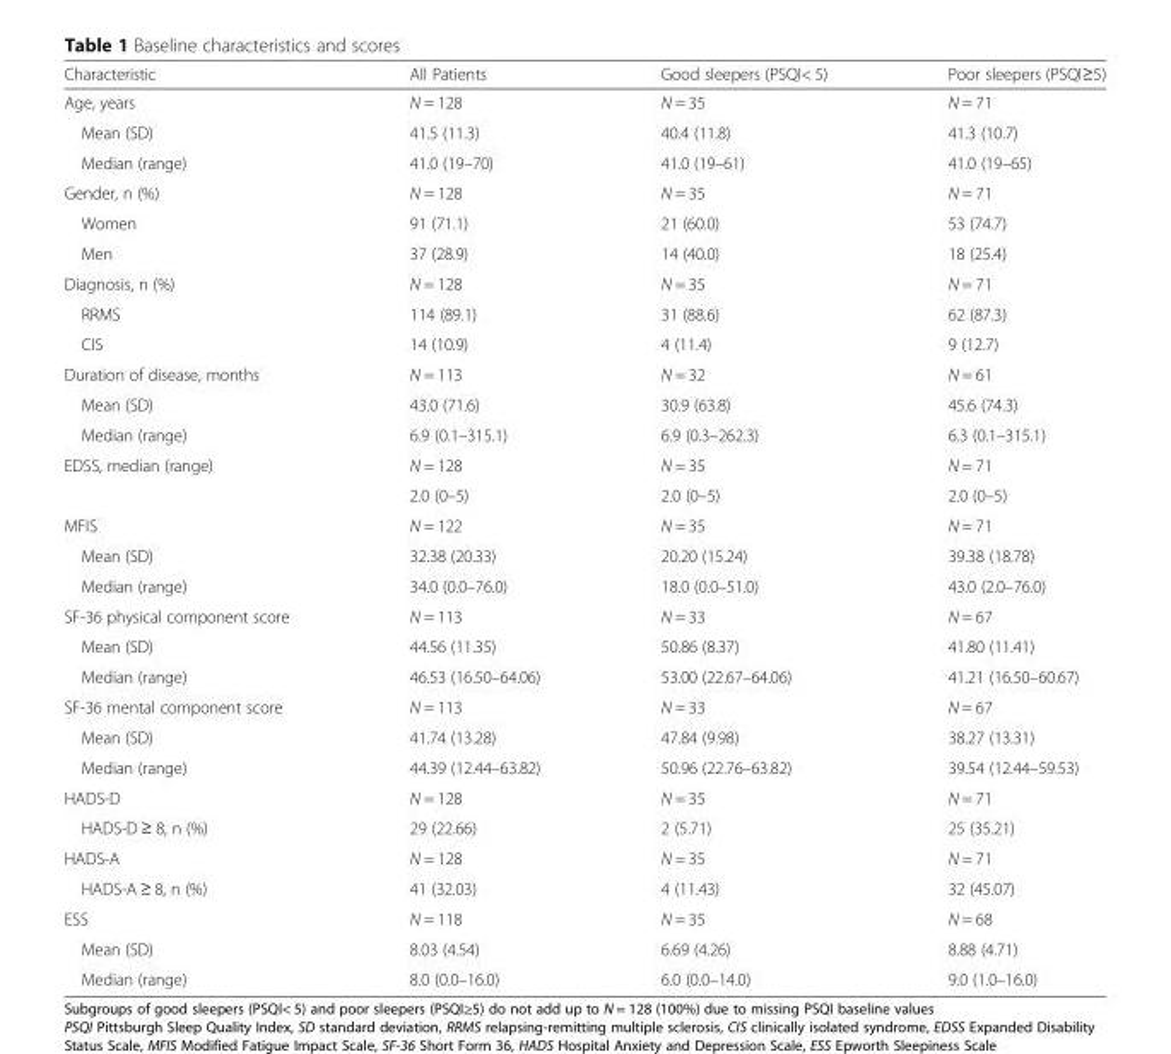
<table><thead><tr><td>Characteristic</td><td>All Patients</td><td>Good sleepers (PSQI&lt; 5)</td><td>Poor sleepers (PSQI≥5)</td></tr></thead><tbody><tr><td>Age, years</td><td>N = 128</td><td>N = 35</td><td>N = 71</td></tr><tr><td>Mean (SD)</td><td>41.5 (11.3)</td><td>40.4 (11.8)</td><td>41.3 (10.7)</td></tr><tr><td>Median (range)</td><td>41.0 (19–70)</td><td>41.0 (19–61)</td><td>41.0 (19–65)</td></tr><tr><td>Gender, n (%)</td><td>N = 128</td><td>N = 35</td><td>N = 71</td></tr><tr><td>Women</td><td>91 (71.1)</td><td>21 (60.0)</td><td>53 (74.7)</td></tr><tr><td>Men</td><td>37 (28.9)</td><td>14 (40.0)</td><td>18 (25.4)</td></tr><tr><td>Diagnosis, n (%)</td><td>N = 128</td><td>N = 35</td><td>N = 71</td></tr><tr><td>RRMS</td><td>114 (89.1)</td><td>31 (88.6)</td><td>62 (87.3)</td></tr><tr><td>CIS</td><td>14 (10.9)</td><td>4 (11.4)</td><td>9 (12.7)</td></tr><tr><td>Duration of disease, months</td><td>N = 113</td><td>N = 32</td><td>N = 61</td></tr><tr><td>Mean (SD)</td><td>43.0 (71.6)</td><td>30.9 (63.8)</td><td>45.6 (74.3)</td></tr><tr><td>Median (range)</td><td>6.9 (0.1–315.1)</td><td>6.9 (0.3–262.3)</td><td>6.3 (0.1–315.1)</td></tr><tr><td rowspan="2">EDSS, median (range)</td><td>N = 128</td><td>N = 35</td><td>N = 71</td></tr><tr><td>2.0 (0–5)</td><td>2.0 (0–5)</td><td>2.0 (0–5)</td></tr><tr><td>MFIS</td><td>N = 122</td><td>N = 35</td><td>N = 71</td></tr><tr><td>Mean (SD)</td><td>32.38 (20.33)</td><td>20.20 (15.24)</td><td>39.38 (18.78)</td></tr><tr><td>Median (range)</td><td>34.0 (0.0–76.0)</td><td>18.0 (0.0–51.0)</td><td>43.0 (2.0–76.0)</td></tr><tr><td>SF-36 physical component score</td><td>N = 113</td><td>N = 33</td><td>N = 67</td></tr><tr><td>Mean (SD)</td><td>44.56 (11.35)</td><td>50.86 (8.37)</td><td>41.80 (11.41)</td></tr><tr><td>Median (range)</td><td>46.53 (16.50–64.06)</td><td>53.00 (22.67–64.06)</td><td>41.21 (16.50–60.67)</td></tr><tr><td>SF-36 mental component score</td><td>N = 113</td><td>N = 33</td><td>N = 67</td></tr><tr><td>Mean (SD)</td><td>41.74 (13.28)</td><td>47.84 (9.98)</td><td>38.27 (13.31)</td></tr><tr><td>Median (range)</td><td>44.39 (12.44–63.82)</td><td>50.96 (22.76–63.82)</td><td>39.54 (12.44–59.53)</td></tr><tr><td>HADS-D</td><td>N = 128</td><td>N = 35</td><td>N = 71</td></tr><tr><td>HADS-D ≥ 8, n (%)</td><td>29 (22.66)</td><td>2 (5.71)</td><td>25 (35.21)</td></tr><tr><td>HADS-A</td><td>N = 128</td><td>N = 35</td><td>N = 71</td></tr><tr><td>HADS-A ≥ 8, n (%)</td><td>41 (32.03)</td><td>4 (11.43)</td><td>32 (45.07)</td></tr><tr><td>ESS</td><td>N = 118</td><td>N = 35</td><td>N = 68</td></tr><tr><td>Mean (SD)</td><td>8.03 (4.54)</td><td>6.69 (4.26)</td><td>8.88 (4.71)</td></tr><tr><td>Median (range)</td><td>8.0 (0.0–16.0)</td><td>6.0 (0.0–14.0)</td><td>9.0 (1.0–16.0)</td></tr></tbody></table>